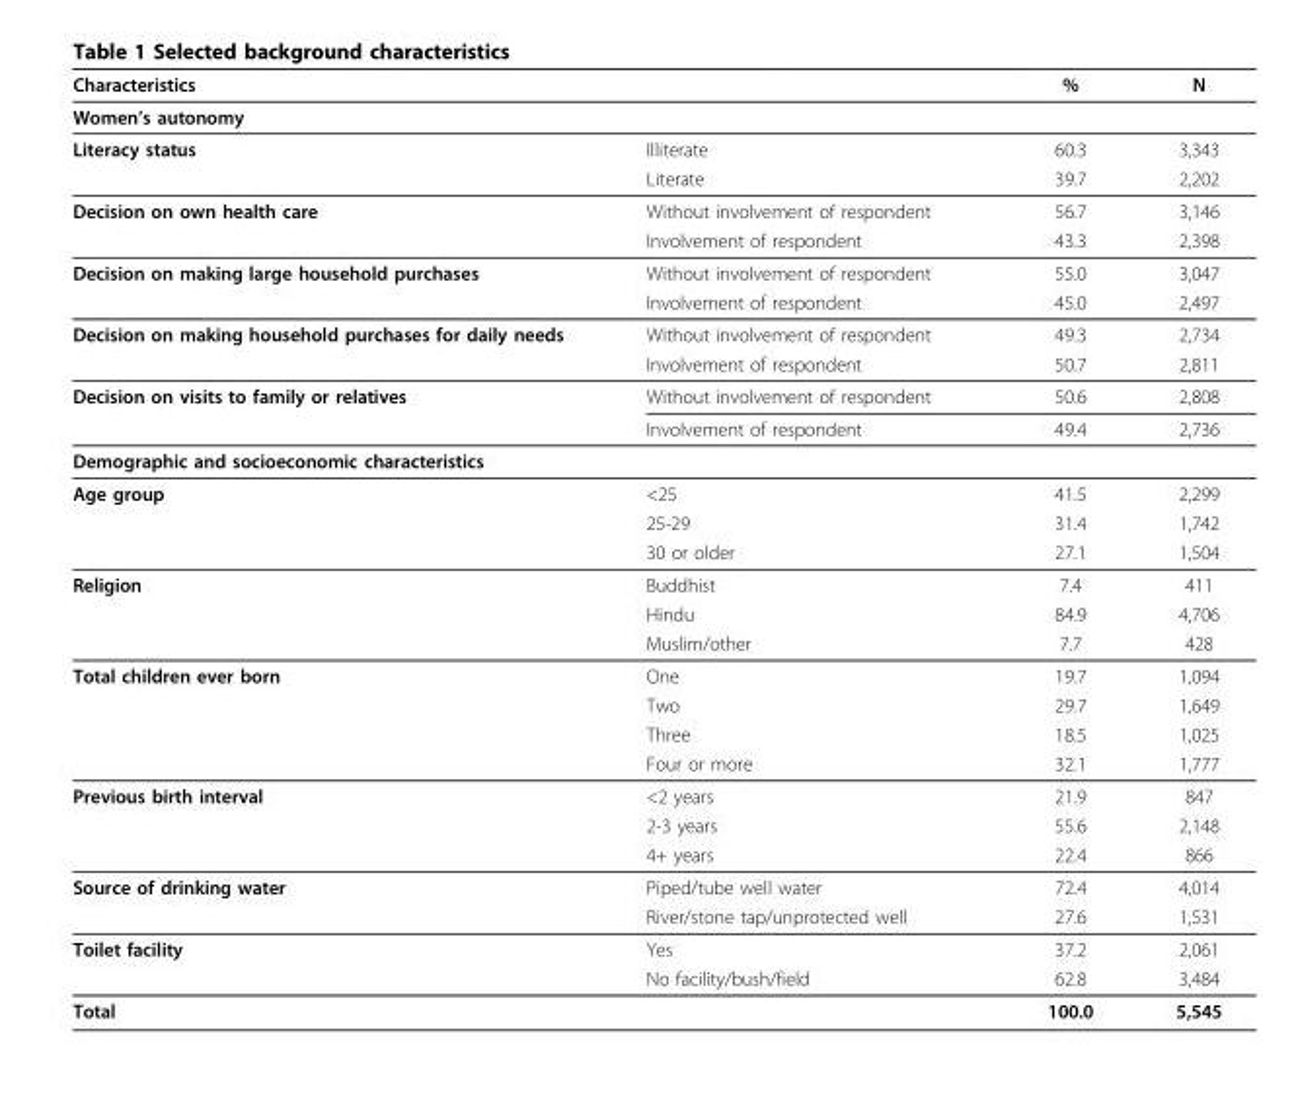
<table><thead><tr><td>Characteristics</td><td></td><td>%</td><td>N</td></tr></thead><tbody><tr><td colspan="4">Women’s autonomy</td></tr><tr><td rowspan="2">Literacy status</td><td>Illiterate</td><td>60.3</td><td>3,343</td></tr><tr><td>Literate</td><td>39.7</td><td>2,202</td></tr><tr><td rowspan="2">Decision on own health care</td><td>Without involvement of respondent</td><td>56.7</td><td>3,146</td></tr><tr><td>Involvement of respondent</td><td>43.3</td><td>2,398</td></tr><tr><td rowspan="2">Decision on making large household purchases</td><td>Without involvement of respondent</td><td>55.0</td><td>3,047</td></tr><tr><td>Involvement of respondent</td><td>45.0</td><td>2,497</td></tr><tr><td rowspan="2">Decision on making household purchases for daily needs</td><td>Without involvement of respondent</td><td>49.3</td><td>2,734</td></tr><tr><td>Involvement of respondent</td><td>50.7</td><td>2,811</td></tr><tr><td rowspan="2">Decision on visits to family or relatives</td><td>Without involvement of respondent</td><td>50.6</td><td>2,808</td></tr><tr><td>Involvement of respondent</td><td>49.4</td><td>2,736</td></tr><tr><td colspan="4">Demographic and socioeconomic characteristics</td></tr><tr><td rowspan="3">Age group</td><td>&lt;25</td><td>41.5</td><td>2,299</td></tr><tr><td>25-29</td><td>31.4</td><td>1,742</td></tr><tr><td>30 or older</td><td>27.1</td><td>1,504</td></tr><tr><td rowspan="3">Religion</td><td>Buddhist</td><td>7.4</td><td>411</td></tr><tr><td>Hindu</td><td>84.9</td><td>4,706</td></tr><tr><td>Muslim/other</td><td>7.7</td><td>428</td></tr><tr><td rowspan="4">Total children ever born</td><td>One</td><td>19.7</td><td>1,094</td></tr><tr><td>Two</td><td>29.7</td><td>1,649</td></tr><tr><td>Three</td><td>18.5</td><td>1,025</td></tr><tr><td>Four or more</td><td>32.1</td><td>1,777</td></tr><tr><td rowspan="3">Previous birth interval</td><td>&lt;2 years</td><td>21.9</td><td>847</td></tr><tr><td>2-3 years</td><td>55.6</td><td>2,148</td></tr><tr><td>4+ years</td><td>22.4</td><td>866</td></tr><tr><td rowspan="2">Source of drinking water</td><td>Piped/tube well water</td><td>72.4</td><td>4,014</td></tr><tr><td>River/stone tap/unprotected well</td><td>27.6</td><td>1,531</td></tr><tr><td rowspan="2">Toilet facility</td><td>Yes</td><td>37.2</td><td>2,061</td></tr><tr><td>No facility/bush/field</td><td>62.8</td><td>3,484</td></tr><tr><td>Total</td><td></td><td>100.0</td><td>5,545</td></tr></tbody></table>